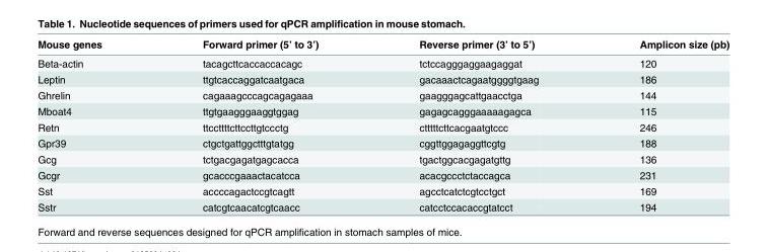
<table><thead><tr><td>Mouse genes</td><td>Forward primer (5’ to 3’)</td><td>Reverse primer (3’ to 5’)</td><td>Amplicon size (pb)</td></tr></thead><tbody><tr><td>Beta-actin</td><td>tacagcttcaccaccacagc</td><td>tctccagggaggaagaggat</td><td>120</td></tr><tr><td>Leptin</td><td>ttgtcaccaggatcaatgaca</td><td>gacaaactcagaatggggtgaag</td><td>186</td></tr><tr><td>Ghrelin</td><td>cagaaagcccagcagagaaa</td><td>gaagggagcattgaacctga</td><td>144</td></tr><tr><td>Mboat4</td><td>ttgtgaagggaaggtggag</td><td>gagagcagggaaaaagagca</td><td>115</td></tr><tr><td>Retn</td><td>ttccttttcttccttgtccctg</td><td>ctttttcttcacgaatgtccc</td><td>246</td></tr><tr><td>Gpr39</td><td>ctgctgattggctttgtatgg</td><td>cggttggagaggttcgtg</td><td>188</td></tr><tr><td>Gcg</td><td>tctgacgagatgagcacca</td><td>tgactggcacgagatgttg</td><td>136</td></tr><tr><td>Gcgr</td><td>gcacccgaaactacatcca</td><td>acacgccctctaccagca</td><td>231</td></tr><tr><td>Sst</td><td>accccagactccgtcagtt</td><td>agcctcatctcgtcctgct</td><td>169</td></tr><tr><td>Sstr</td><td>catcgtcaacatcgtcaacc</td><td>catcctccacaccgtatcct</td><td>194</td></tr></tbody></table>